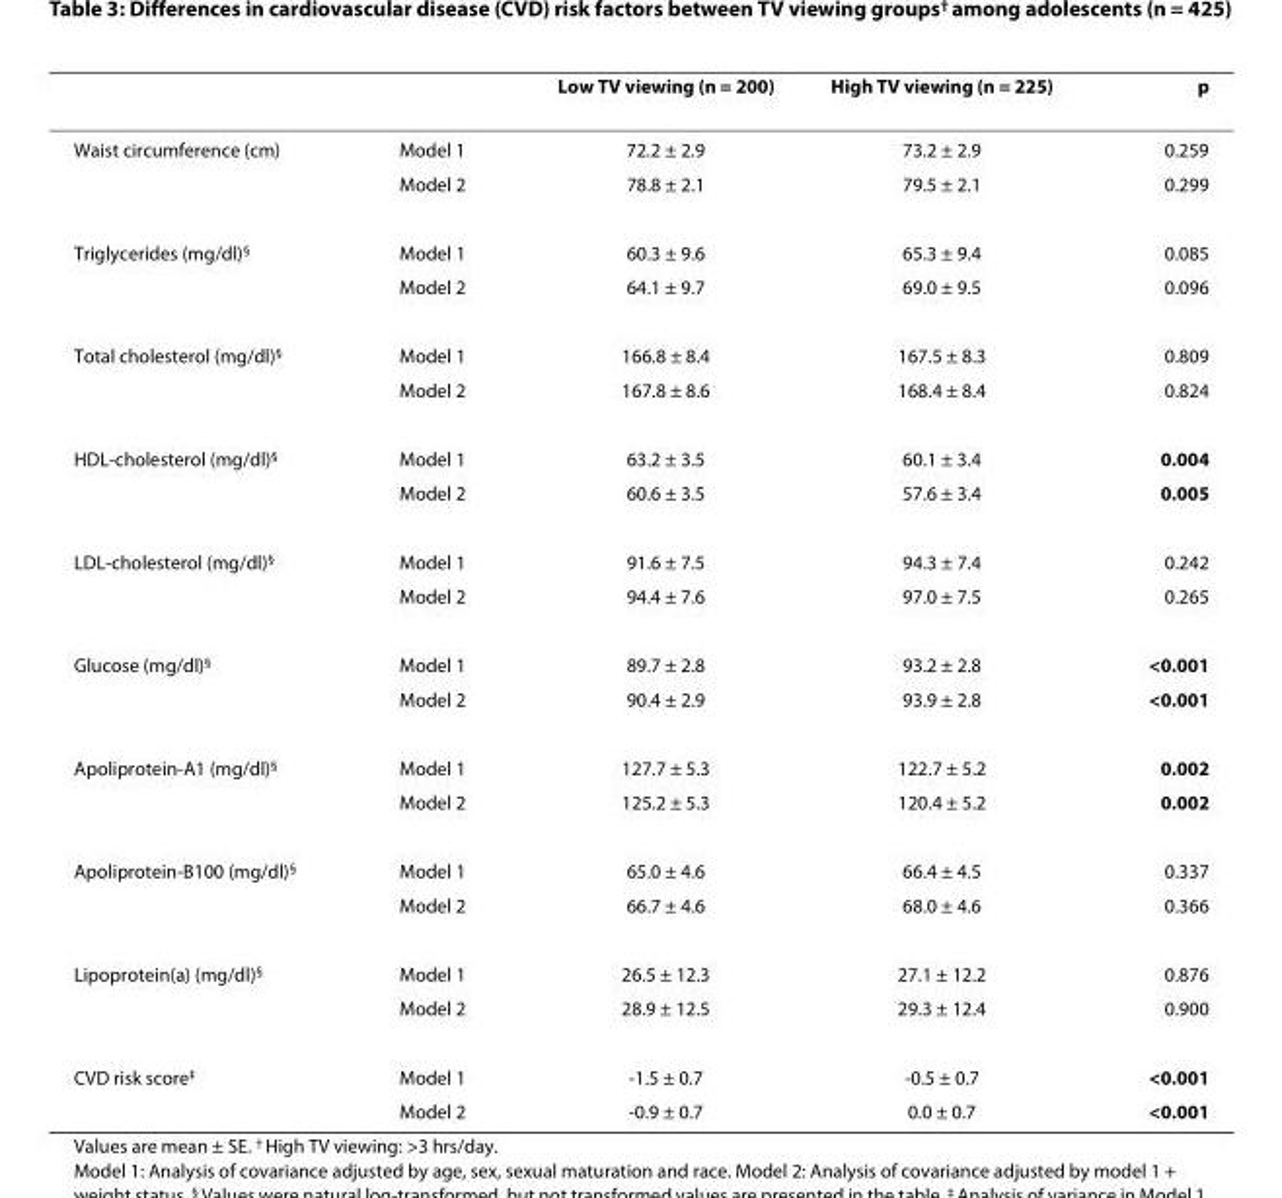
<table><thead><tr><td></td><td></td><td>Low TV viewing (n = 200)</td><td>High TV viewing (n = 225)</td><td>p</td></tr></thead><tbody><tr><td rowspan="2">Waist circumference (cm)</td><td>Model 1</td><td>72.2 ± 2.9</td><td>73.2 ± 2.9</td><td>0.259</td></tr><tr><td>Model 2</td><td>78.8 ± 2.1</td><td>79.5 ± 2.1</td><td>0.299</td></tr><tr><td rowspan="2">Triglycerides (mg/dl)<sup>§</sup></td><td>Model 1</td><td>60.3 ± 9.6</td><td>65.3 ± 9.4</td><td>0.085</td></tr><tr><td>Model 2</td><td>64.1 ± 9.7</td><td>69.0 ± 9.5</td><td>0.096</td></tr><tr><td rowspan="2">Total cholesterol (mg/dl)<sup>§</sup></td><td>Model 1</td><td>166.8 ± 8.4</td><td>167.5 ± 8.3</td><td>0.809</td></tr><tr><td>Model 2</td><td>167.8 ± 8.6</td><td>168.4 ± 8.4</td><td>0.824</td></tr><tr><td rowspan="2">HDL-cholesterol (mg/dl)<sup>§</sup></td><td>Model 1</td><td>63.2 ± 3.5</td><td>60.1 ± 3.4</td><td>0.004</td></tr><tr><td>Model 2</td><td>60.6 ± 3.5</td><td>57.6 ± 3.4</td><td>0.005</td></tr><tr><td rowspan="2">LDL-cholesterol (mg/dl)<sup>§</sup></td><td>Model 1</td><td>91.6 ± 7.5</td><td>94.3 ± 7.4</td><td>0.242</td></tr><tr><td>Model 2</td><td>94.4 ± 7.6</td><td>97.0 ± 7.5</td><td>0.265</td></tr><tr><td rowspan="2">Glucose (mg/dl)<sup>§</sup></td><td>Model 1</td><td>89.7 ± 2.8</td><td>93.2 ± 2.8</td><td>&lt;0.001</td></tr><tr><td>Model 2</td><td>90.4 ± 2.9</td><td>93.9 ± 2.8</td><td>&lt;0.001</td></tr><tr><td rowspan="2">Apoliprotein-A1 (mg/dl)<sup>§</sup></td><td>Model 1</td><td>127.7 ± 5.3</td><td>122.7 ± 5.2</td><td>0.002</td></tr><tr><td>Model 2</td><td>125.2 ± 5.3</td><td>120.4 ± 5.2</td><td>0.002</td></tr><tr><td rowspan="2">Apoliprotein-B100 (mg/dl)<sup>§</sup></td><td>Model 1</td><td>65.0 ± 4.6</td><td>66.4 ± 4.5</td><td>0.337</td></tr><tr><td>Model 2</td><td>66.7 ± 4.6</td><td>68.0 ± 4.6</td><td>0.366</td></tr><tr><td rowspan="2">Lipoprotein(a) (mg/dl)<sup>§</sup></td><td>Model 1</td><td>26.5 ± 12.3</td><td>27.1 ± 12.2</td><td>0.876</td></tr><tr><td>Model 2</td><td>28.9 ± 12.5</td><td>29.3 ± 12.4</td><td>0.900</td></tr><tr><td rowspan="2">CVD risk score<sup>‡</sup></td><td>Model 1</td><td>-1.5 ± 0.7</td><td>-0.5 ± 0.7</td><td>&lt;0.001</td></tr><tr><td>Model 2</td><td>-0.9 ± 0.7</td><td>0.0 ± 0.7</td><td>&lt;0.001</td></tr></tbody></table>